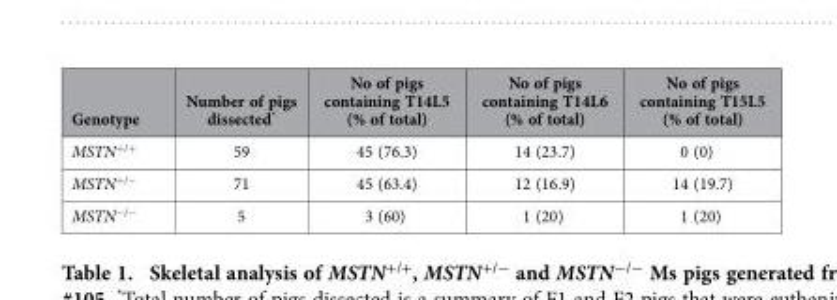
<table><thead><tr><td>Genotype</td><td>Number of pigs dissected*</td><td>No of pigs containing T14L5 (% of total)</td><td>No of pigs containing T14L6 (% of total)</td><td>No of pigs containing T15L5 (% of total)</td></tr></thead><tbody><tr><td>MSTN<sup>+/+</sup></td><td>59</td><td>45 (76.3)</td><td>14 (23.7)</td><td>0 (0)</td></tr><tr><td>MSTN<sup>+/−</sup></td><td>71</td><td>45 (63.4)</td><td>12 (16.9)</td><td>14 (19.7)</td></tr><tr><td>MSTN<sup>−/−</sup></td><td>5</td><td>3 (60)</td><td>1 (20)</td><td>1 (20)</td></tr></tbody></table>